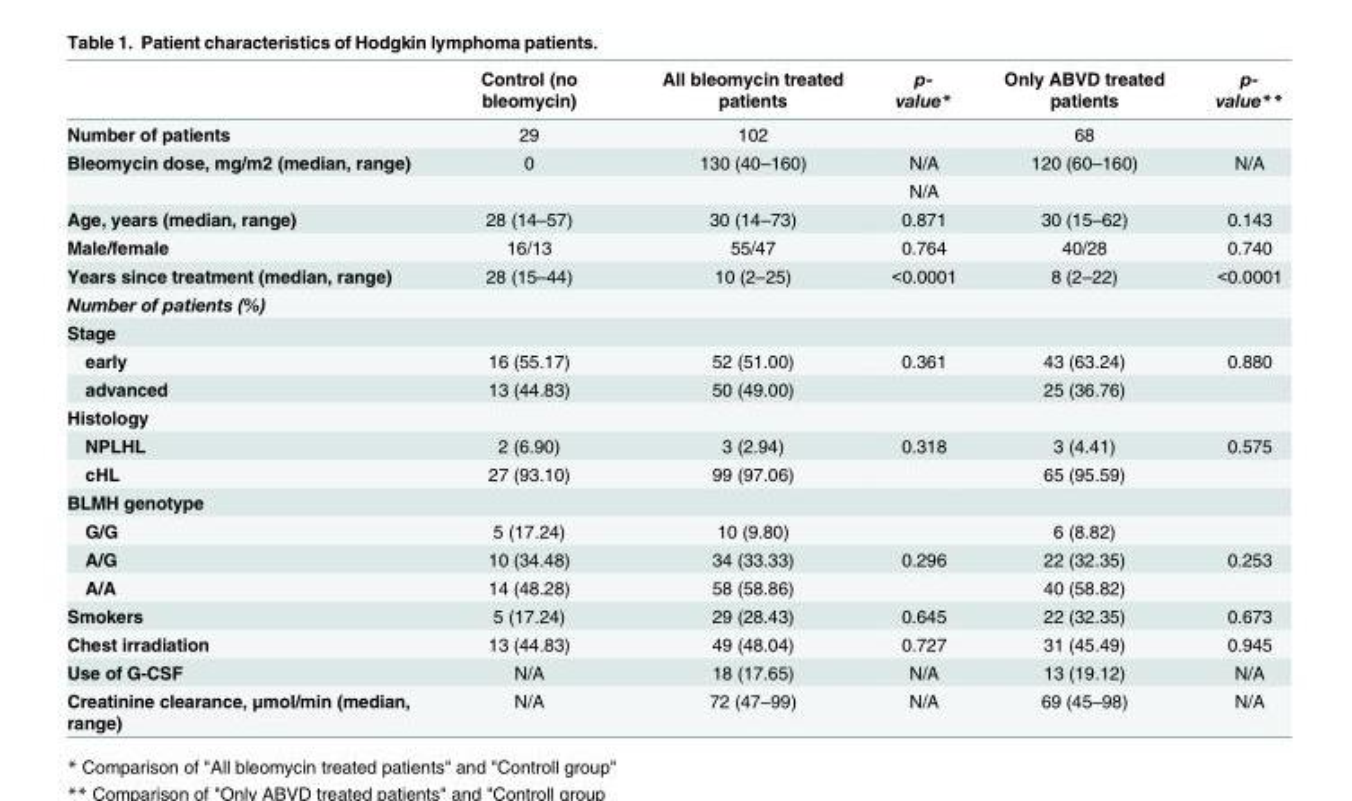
<table><thead><tr><td></td><td>Control (no bleomycin)</td><td>All bleomycin treated patients</td><td>p- value*</td><td>Only ABVD treated patients</td><td>p- value**</td></tr></thead><tbody><tr><td>Number of patients</td><td>29</td><td>102</td><td></td><td>68</td><td></td></tr><tr><td rowspan="2">Bleomycin dose, mg/m2 (median, range)</td><td>0</td><td>130 (40–160)</td><td>N/A</td><td>120 (60–160)</td><td>N/A</td></tr><tr><td></td><td></td><td>N/A</td><td></td><td></td></tr><tr><td>Age, years (median, range)</td><td>28 (14–57)</td><td>30 (14–73)</td><td>0.871</td><td>30 (15–62)</td><td>0.143</td></tr><tr><td>Male/female</td><td>16/13</td><td>55/47</td><td>0.764</td><td>40/28</td><td>0.740</td></tr><tr><td>Years since treatment (median, range)</td><td>28 (15–44)</td><td>10 (2–25)</td><td>&lt;0.0001</td><td>8 (2–22)</td><td>&lt;0.0001</td></tr><tr><td colspan="6">Number of patients (%)</td></tr><tr><td colspan="6">Stage</td></tr><tr><td>early</td><td>16 (55.17)</td><td>52 (51.00)</td><td>0.361</td><td>43 (63.24)</td><td>0.880</td></tr><tr><td>advanced</td><td>13 (44.83)</td><td>50 (49.00)</td><td></td><td>25 (36.76)</td><td></td></tr><tr><td colspan="6">Histology</td></tr><tr><td>NPLHL</td><td>2 (6.90)</td><td>3 (2.94)</td><td>0.318</td><td>3 (4.41)</td><td>0.575</td></tr><tr><td>cHL</td><td>27 (93.10)</td><td>99 (97.06)</td><td></td><td>65 (95.59)</td><td></td></tr><tr><td colspan="6">BLMH genotype</td></tr><tr><td>G/G</td><td>5 (17.24)</td><td>10 (9.80)</td><td></td><td>6 (8.82)</td><td></td></tr><tr><td>A/G</td><td>10 (34.48)</td><td>34 (33.33)</td><td>0.296</td><td>22 (32.35)</td><td>0.253</td></tr><tr><td>A/A</td><td>14 (48.28)</td><td>58 (58.86)</td><td></td><td>40 (58.82)</td><td></td></tr><tr><td>Smokers</td><td>5 (17.24)</td><td>29 (28.43)</td><td>0.645</td><td>22 (32.35)</td><td>0.673</td></tr><tr><td>Chest irradiation</td><td>13 (44.83)</td><td>49 (48.04)</td><td>0.727</td><td>31 (45.49)</td><td>0.945</td></tr><tr><td>Use of G-CSF</td><td>N/A</td><td>18 (17.65)</td><td>N/A</td><td>13 (19.12)</td><td>N/A</td></tr><tr><td>Creatinine clearance, μmol/min (median, range)</td><td>N/A</td><td>72 (47–99)</td><td>N/A</td><td>69 (45–98)</td><td>N/A</td></tr></tbody></table>